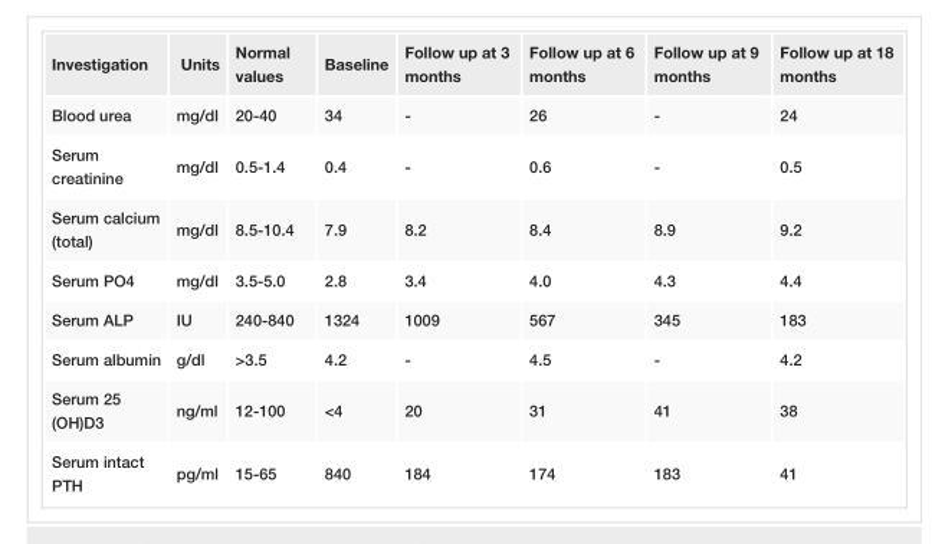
<table><tbody><tr><td>Investigation</td><td>Units</td><td>Normal values</td><td>Baseline</td><td>Follow up at 3 months</td><td>Follow up at 6 months</td><td>Follow up at 9 months</td><td>Follow up at 18 months</td></tr><tr><td>Blood urea</td><td>mg/dl</td><td>20-40</td><td>34</td><td>-</td><td>26</td><td>-</td><td>24</td></tr><tr><td>Serum creatinine</td><td>mg/dl</td><td>0.5-1.4</td><td>0.4</td><td>-</td><td>0.6</td><td>-</td><td>0.5</td></tr><tr><td>Serum calcium (total)</td><td>mg/dl</td><td>8.5-10.4</td><td>7.9</td><td>8.2</td><td>8.4</td><td>8.9</td><td>9.2</td></tr><tr><td>Serum PO4</td><td>mg/dl</td><td>3.5-5.0</td><td>2.8</td><td>3.4</td><td>4.0</td><td>4.3</td><td>4.4</td></tr><tr><td>Serum ALP</td><td>IU</td><td>240-840</td><td>1324</td><td>1009</td><td>567</td><td>345</td><td>183</td></tr><tr><td>Serum albumin</td><td>g/dl</td><td>&gt;3.5</td><td>4.2</td><td>-</td><td>4.5</td><td>-</td><td>4.2</td></tr><tr><td>Serum 25 (OH)D3</td><td>ng/ml</td><td>12-100</td><td>&lt;4</td><td>20</td><td>31</td><td>41</td><td>38</td></tr><tr><td>Serum intact PTH</td><td>pg/ml</td><td>15-65</td><td>840</td><td>184</td><td>174</td><td>183</td><td>41</td></tr></tbody></table>